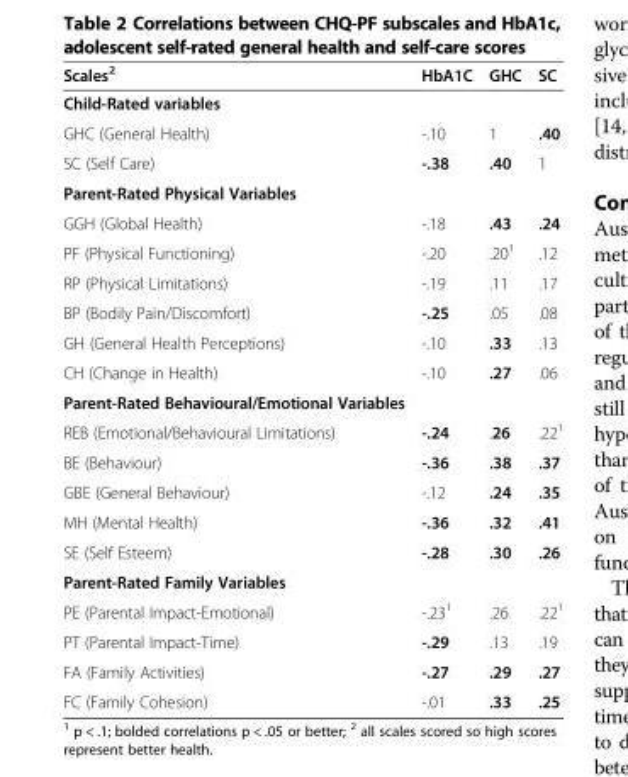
<table><thead><tr><td>Scales<sup>2</sup></td><td>HbA1C</td><td>GHC</td><td>SC</td></tr></thead><tbody><tr><td colspan="4">Child-Rated variables</td></tr><tr><td>GHC (General Health)</td><td>-.10</td><td>1</td><td>.40</td></tr><tr><td>SC (Self Care)</td><td>-.38</td><td>.40</td><td>1</td></tr><tr><td colspan="4">Parent-Rated Physical Variables</td></tr><tr><td>GGH (Global Health)</td><td>-.18</td><td>.43</td><td>.24</td></tr><tr><td>PF (Physical Functioning)</td><td>-.20</td><td>.20<sup>1</sup></td><td>.12</td></tr><tr><td>RP (Physical Limitations)</td><td>-.19</td><td>.11</td><td>.17</td></tr><tr><td>BP (Bodily Pain/Discomfort)</td><td>-.25</td><td>.05</td><td>.08</td></tr><tr><td>GH (General Health Perceptions)</td><td>-.10</td><td>.33</td><td>.13</td></tr><tr><td>CH (Change in Health)</td><td>-.10</td><td>.27</td><td>.06</td></tr><tr><td colspan="4">Parent-Rated Behavioural/Emotional Variables</td></tr><tr><td>REB (Emotional/Behavioural Limitations)</td><td>-.24</td><td>.26</td><td>.22<sup>1</sup></td></tr><tr><td>BE (Behaviour)</td><td>-.36</td><td>.38</td><td>.37</td></tr><tr><td>GBE (General Behaviour)</td><td>-.12</td><td>.24</td><td>.35</td></tr><tr><td>MH (Mental Health)</td><td>-.36</td><td>.32</td><td>.41</td></tr><tr><td>SE (Self Esteem)</td><td>-.28</td><td>.30</td><td>.26</td></tr><tr><td colspan="4">Parent-Rated Family Variables</td></tr><tr><td>PE (Parental Impact-Emotional)</td><td>-.23<sup>1</sup></td><td>.26</td><td>.22<sup>1</sup></td></tr><tr><td>PT (Parental Impact-Time)</td><td>-.29</td><td>.13</td><td>.19</td></tr><tr><td>FA (Family Activities)</td><td>-.27</td><td>.29</td><td>.27</td></tr><tr><td>FC (Family Cohesion)</td><td>-.01</td><td>.33</td><td>.25</td></tr></tbody></table>